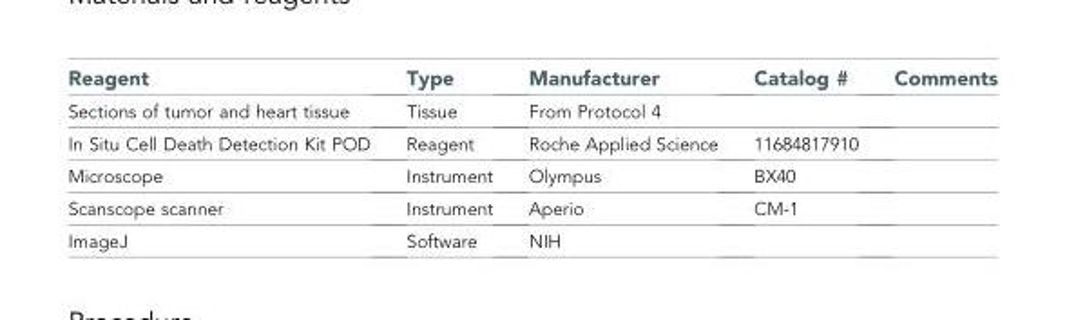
<table><thead><tr><td>Reagent</td><td>Type</td><td>Manufacturer</td><td>Catalog #</td><td>Comments</td></tr></thead><tbody><tr><td>Sections of tumor and heart tissue</td><td>Tissue</td><td colspan="2">From Protocol 4</td><td></td></tr><tr><td>In Situ Cell Death Detection Kit POD</td><td>Reagent</td><td>Roche Applied Science</td><td>11684817910</td><td></td></tr><tr><td>Microscope</td><td>Instrument</td><td>Olympus</td><td>BX40</td><td></td></tr><tr><td>Scanscope scanner</td><td>Instrument</td><td>Aperio</td><td>CM-1</td><td></td></tr><tr><td>ImageJ</td><td>Software</td><td>NIH</td><td></td><td></td></tr></tbody></table>